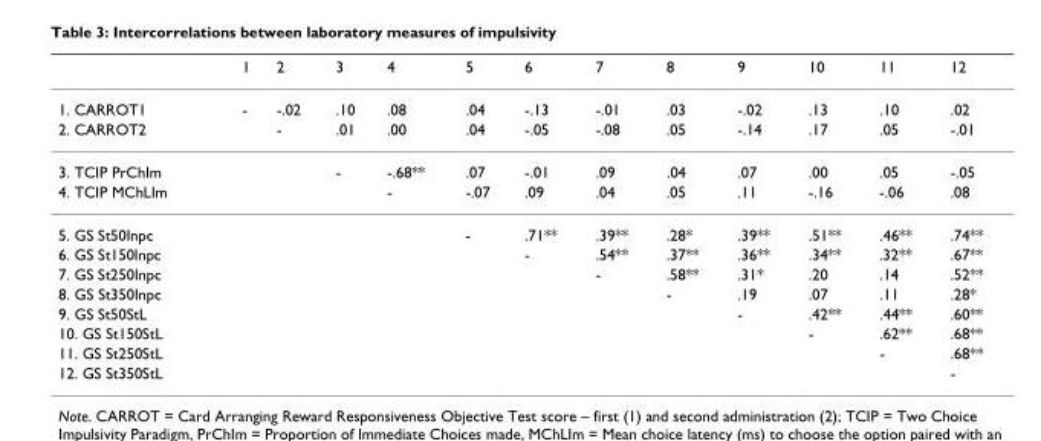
<table><thead><tr><td></td><td>1</td><td>2</td><td>3</td><td>4</td><td>5</td><td>6</td><td>7</td><td>8</td><td>9</td><td>10</td><td>11</td><td>12</td></tr></thead><tbody><tr><td>1. CARROT1</td><td>-</td><td>-.02</td><td>.10</td><td>.08</td><td>.04</td><td>-.13</td><td>-.01</td><td>.03</td><td>-.02</td><td>.13</td><td>.10</td><td>.02</td></tr><tr><td>2. CARROT2</td><td></td><td>-</td><td>.01</td><td>.00</td><td>.04</td><td>-.05</td><td>-.08</td><td>.05</td><td>-.14</td><td>.17</td><td>.05</td><td>-.01</td></tr><tr><td>3. TCIP PrChIm</td><td></td><td></td><td>-</td><td>-.68**</td><td>.07</td><td>-.01</td><td>.09</td><td>.04</td><td>.07</td><td>.00</td><td>.05</td><td>-.05</td></tr><tr><td>4. TCIP MChLIm</td><td></td><td></td><td></td><td>-</td><td>-.07</td><td>.09</td><td>.04</td><td>.05</td><td>.11</td><td>-.16</td><td>-.06</td><td>.08</td></tr><tr><td>5. GS St50Inpc</td><td></td><td></td><td></td><td></td><td>-</td><td>.71**</td><td>.39**</td><td>.28*</td><td>.39**</td><td>.51**</td><td>.46**</td><td>.74**</td></tr><tr><td>6. GS St150Inpc</td><td></td><td></td><td></td><td></td><td></td><td>-</td><td>.54**</td><td>.37**</td><td>.36**</td><td>.34**</td><td>.32**</td><td>.67**</td></tr><tr><td>7. GS St250Inpc</td><td></td><td></td><td></td><td></td><td></td><td></td><td>-</td><td>.58**</td><td>.31*</td><td>.20</td><td>.14</td><td>.52**</td></tr><tr><td>8. GS St350Inpc</td><td></td><td></td><td></td><td></td><td></td><td></td><td></td><td>-</td><td>.19</td><td>.07</td><td>.11</td><td>.28*</td></tr><tr><td>9. GS St50StL</td><td></td><td></td><td></td><td></td><td></td><td></td><td></td><td></td><td>-</td><td>.42**</td><td>.44**</td><td>.60**</td></tr><tr><td>10. GS St150StL</td><td></td><td></td><td></td><td></td><td></td><td></td><td></td><td></td><td></td><td>-</td><td>.62**</td><td>.68**</td></tr><tr><td>11. GS St250StL</td><td></td><td></td><td></td><td></td><td></td><td></td><td></td><td></td><td></td><td></td><td>-</td><td>.68**</td></tr><tr><td>12. GS St350StL</td><td></td><td></td><td></td><td></td><td></td><td></td><td></td><td></td><td></td><td></td><td></td><td>-</td></tr></tbody></table>